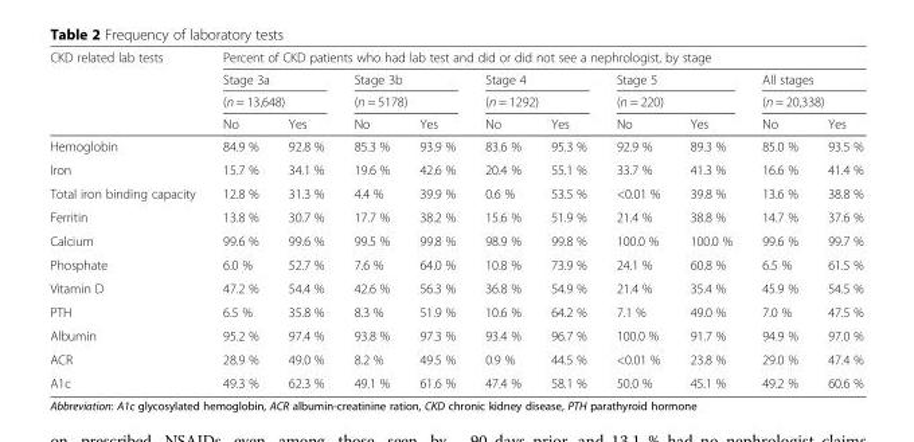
<table><thead><tr><td rowspan="4">CKD related lab tests</td><td colspan="10">Percent of CKD patients who had lab test and did or did not see a nephrologist, by stage</td></tr><tr><td rowspan="2" colspan="2">Stage 3a (n = 13,648)</td><td rowspan="2" colspan="2">Stage 3b (n = 5178)</td><td rowspan="2" colspan="2">Stage 4 (n = 1292)</td><td rowspan="2" colspan="2">Stage 5 (n = 220)</td><td rowspan="2" colspan="2">All stages (n = 20,338)</td></tr><tr></tr><tr><td>No</td><td>Yes</td><td>No</td><td>Yes</td><td>No</td><td>Yes</td><td>No</td><td>Yes</td><td>No</td><td>Yes</td></tr></thead><tbody><tr><td>Hemoglobin</td><td>84.9 %</td><td>92.8 %</td><td>85.3 %</td><td>93.9 %</td><td>83.6 %</td><td>95.3 %</td><td>92.9 %</td><td>89.3 %</td><td>85.0 %</td><td>93.5 %</td></tr><tr><td>Iron</td><td>15.7 %</td><td>34.1 %</td><td>19.6 %</td><td>42.6 %</td><td>20.4 %</td><td>55.1 %</td><td>33.7 %</td><td>41.3 %</td><td>16.6 %</td><td>41.4 %</td></tr><tr><td>Total iron binding capacity</td><td>12.8 %</td><td>31.3 %</td><td>4.4 %</td><td>39.9 %</td><td>0.6 %</td><td>53.5 %</td><td>&lt;0.01 %</td><td>39.8 %</td><td>13.6 %</td><td>38.8 %</td></tr><tr><td>Ferritin</td><td>13.8 %</td><td>30.7 %</td><td>17.7 %</td><td>38.2 %</td><td>15.6 %</td><td>51.9 %</td><td>21.4 %</td><td>38.8 %</td><td>14.7 %</td><td>37.6 %</td></tr><tr><td>Calcium</td><td>99.6 %</td><td>99.6 %</td><td>99.5 %</td><td>99.8 %</td><td>98.9 %</td><td>99.8 %</td><td>100.0 %</td><td>100.0 %</td><td>99.6 %</td><td>99.7 %</td></tr><tr><td>Phosphate</td><td>6.0 %</td><td>52.7 %</td><td>7.6 %</td><td>64.0 %</td><td>10.8 %</td><td>73.9 %</td><td>24.1 %</td><td>60.8 %</td><td>6.5 %</td><td>61.5 %</td></tr><tr><td>Vitamin D</td><td>47.2 %</td><td>54.4 %</td><td>42.6 %</td><td>56.3 %</td><td>36.8 %</td><td>54.9 %</td><td>21.4 %</td><td>35.4 %</td><td>45.9 %</td><td>54.5 %</td></tr><tr><td>PTH</td><td>6.5 %</td><td>35.8 %</td><td>8.3 %</td><td>51.9 %</td><td>10.6 %</td><td>64.2 %</td><td>7.1 %</td><td>49.0 %</td><td>7.0 %</td><td>47.5 %</td></tr><tr><td>Albumin</td><td>95.2 %</td><td>97.4 %</td><td>93.8 %</td><td>97.3 %</td><td>93.4 %</td><td>96.7 %</td><td>100.0 %</td><td>91.7 %</td><td>94.9 %</td><td>97.0 %</td></tr><tr><td>ACR</td><td>28.9 %</td><td>49.0 %</td><td>8.2 %</td><td>49.5 %</td><td>0.9 %</td><td>44.5 %</td><td>&lt;0.01 %</td><td>23.8 %</td><td>29.0 %</td><td>47.4 %</td></tr><tr><td>A1c</td><td>49.3 %</td><td>62.3 %</td><td>49.1 %</td><td>61.6 %</td><td>47.4 %</td><td>58.1 %</td><td>50.0 %</td><td>45.1 %</td><td>49.2 %</td><td>60.6 %</td></tr></tbody></table>